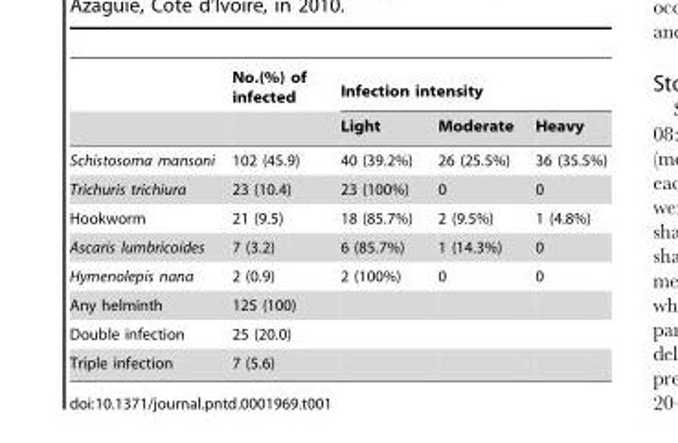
<table><thead><tr><td rowspan="2"></td><td rowspan="2">No.(%) of infected</td><td colspan="3">Infection intensity</td></tr><tr><td>Light</td><td>Moderate</td><td>Heavy</td></tr></thead><tbody><tr><td>Schistosoma mansoni</td><td>102 (45.9)</td><td>40 (39.2%)</td><td>26 (25.5%)</td><td>36 (35.5%)</td></tr><tr><td>Trichuris trichiura</td><td>23 (10.4)</td><td>23 (100%)</td><td>0</td><td>0</td></tr><tr><td>Hookworm</td><td>21 (9.5)</td><td>18 (85.7%)</td><td>2 (9.5%)</td><td>1 (4.8%)</td></tr><tr><td>Ascaris lumbricoides</td><td>7 (3.2)</td><td>6 (85.7%)</td><td>1 (14.3%)</td><td>0</td></tr><tr><td>Hymenolepis nana</td><td>2 (0.9)</td><td>2 (100%)</td><td>0</td><td>0</td></tr><tr><td>Any helminth</td><td>125 (100)</td><td></td><td></td><td></td></tr><tr><td>Double infection</td><td>25 (20.0)</td><td></td><td></td><td></td></tr><tr><td>Triple infection</td><td>7 (5.6)</td><td></td><td></td><td></td></tr></tbody></table>